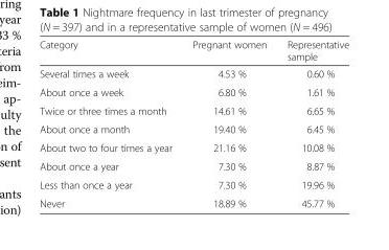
<table><thead><tr><td>Category</td><td>Pregnant women</td><td>Representative sample</td></tr></thead><tbody><tr><td>Several times a week</td><td>4.53 %</td><td>0.60 %</td></tr><tr><td>About once a week</td><td>6.80 %</td><td>1.61 %</td></tr><tr><td>Twice or three times a month</td><td>14.61 %</td><td>6.65 %</td></tr><tr><td>About once a month</td><td>19.40 %</td><td>6.45 %</td></tr><tr><td>About two to four times a year</td><td>21.16 %</td><td>10.08 %</td></tr><tr><td>About once a year</td><td>7.30 %</td><td>8.87 %</td></tr><tr><td>Less than once a year</td><td>7.30 %</td><td>19.96 %</td></tr><tr><td>Never</td><td>18.89 %</td><td>45.77 %</td></tr></tbody></table>